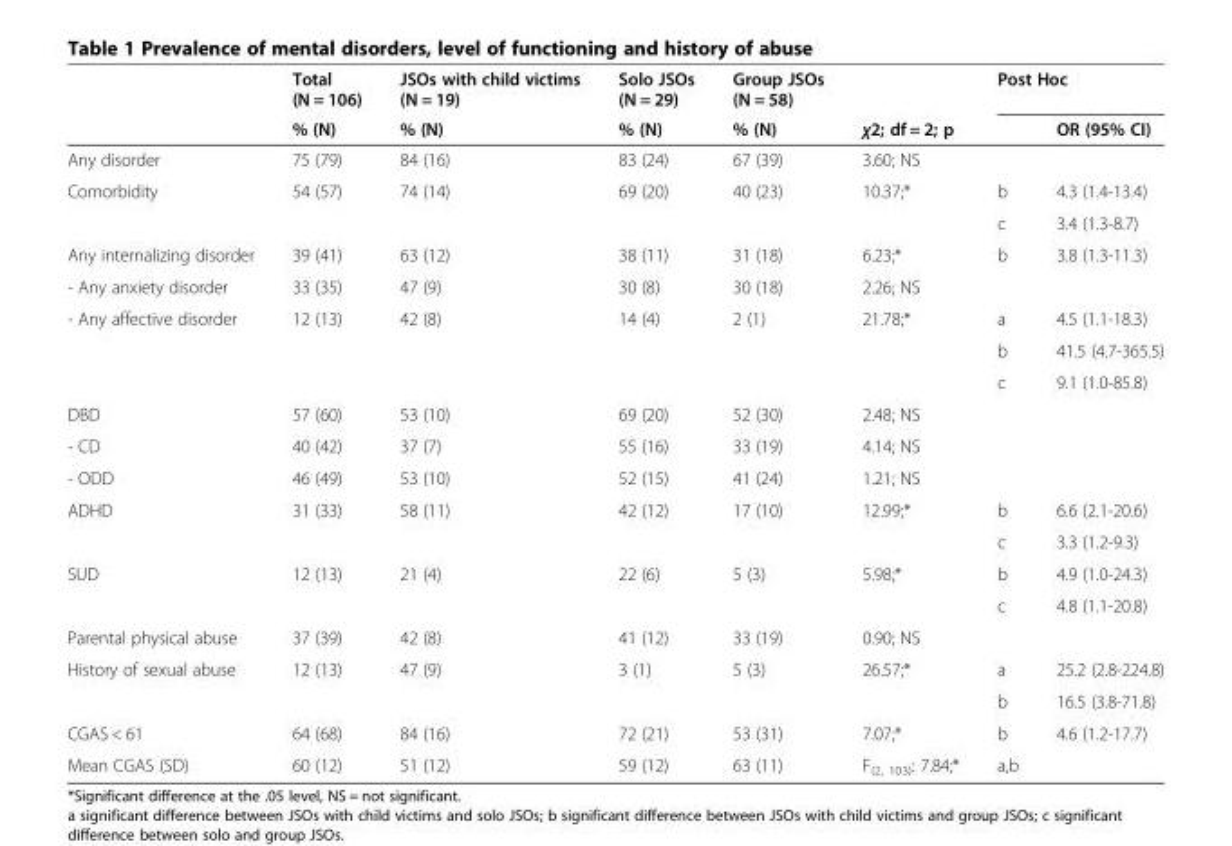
<table><thead><tr><td rowspan="2"></td><td rowspan="2">Total (N = 106) % (N)</td><td rowspan="2">JSOs with child victims (N = 19) % (N)</td><td rowspan="2">Solo JSOs (N = 29) % (N)</td><td rowspan="2">Group JSOs (N = 58) % (N)</td><td rowspan="2">χ2; df = 2; p</td><td colspan="2">Post Hoc</td></tr><tr><td></td><td>OR (95% CI)</td></tr></thead><tbody><tr><td>Any disorder</td><td>75 (79)</td><td>84 (16)</td><td>83 (24)</td><td>67 (39)</td><td>3.60; NS</td><td></td><td></td></tr><tr><td rowspan="2">Comorbidity</td><td>54 (57)</td><td>74 (14)</td><td>69 (20)</td><td>40 (23)</td><td>10.37;*</td><td>b</td><td>4.3 (1.4-13.4)</td></tr><tr><td></td><td></td><td></td><td></td><td></td><td>c</td><td>3.4 (1.3-8.7)</td></tr><tr><td>Any internalizing disorder</td><td>39 (41)</td><td>63 (12)</td><td>38 (11)</td><td>31 (18)</td><td>6.23;*</td><td>b</td><td>3.8 (1.3-11.3)</td></tr><tr><td>- Any anxiety disorder</td><td>33 (35)</td><td>47 (9)</td><td>30 (8)</td><td>30 (18)</td><td>2.26; NS</td><td></td><td></td></tr><tr><td rowspan="3">- Any affective disorder</td><td>12 (13)</td><td>42 (8)</td><td>14 (4)</td><td>2 (1)</td><td>21.78;*</td><td>a</td><td>4.5 (1.1-18.3)</td></tr><tr><td></td><td></td><td></td><td></td><td></td><td>b</td><td>41.5 (4.7-365.5)</td></tr><tr><td></td><td></td><td></td><td></td><td></td><td>c</td><td>9.1 (1.0-85.8)</td></tr><tr><td>DBD</td><td>57 (60)</td><td>53 (10)</td><td>69 (20)</td><td>52 (30)</td><td>2.48; NS</td><td></td><td></td></tr><tr><td>- CD</td><td>40 (42)</td><td>37 (7)</td><td>55 (16)</td><td>33 (19)</td><td>4.14; NS</td><td></td><td></td></tr><tr><td>- ODD</td><td>46 (49)</td><td>53 (10)</td><td>52 (15)</td><td>41 (24)</td><td>1.21; NS</td><td></td><td></td></tr><tr><td rowspan="2">ADHD</td><td>31 (33)</td><td>58 (11)</td><td>42 (12)</td><td>17 (10)</td><td>12.99;*</td><td>b</td><td>6.6 (2.1-20.6)</td></tr><tr><td></td><td></td><td></td><td></td><td></td><td>c</td><td>3.3 (1.2-9.3)</td></tr><tr><td rowspan="2">SUD</td><td>12 (13)</td><td>21 (4)</td><td>22 (6)</td><td>5 (3)</td><td>5.98;*</td><td>b</td><td>4.9 (1.0-24.3)</td></tr><tr><td></td><td></td><td></td><td></td><td></td><td>c</td><td>4.8 (1.1-20.8)</td></tr><tr><td>Parental physical abuse</td><td>37 (39)</td><td>42 (8)</td><td>41 (12)</td><td>33 (19)</td><td>0.90; NS</td><td></td><td></td></tr><tr><td rowspan="2">History of sexual abuse</td><td>12 (13)</td><td>47 (9)</td><td>3 (1)</td><td>5 (3)</td><td>26.57;*</td><td>a</td><td>25.2 (2.8-224.8)</td></tr><tr><td></td><td></td><td></td><td></td><td></td><td>b</td><td>16.5 (3.8-71.8)</td></tr><tr><td>CGAS &lt; 61</td><td>64 (68)</td><td>84 (16)</td><td>72 (21)</td><td>53 (31)</td><td>7.07;*</td><td>b</td><td>4.6 (1.2-17.7)</td></tr><tr><td>Mean CGAS (SD)</td><td>60 (12)</td><td>51 (12)</td><td>59 (12)</td><td>63 (11)</td><td>F<sub>(2, 103)</sub>: 7.84;*</td><td>a,b</td><td></td></tr></tbody></table>